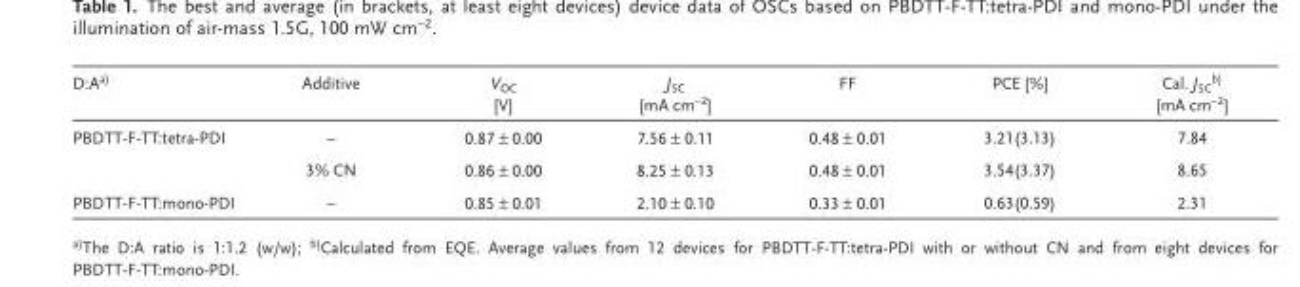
<table><thead><tr><td>D:A a)</td><td>Additive</td><td>V <sub>OC</sub> [V]</td><td>J <sub>SC</sub> [mA cm <sup>−2</sup> ]</td><td>FF</td><td>PCE [%]</td><td>Cal. J <sub>SC</sub> b) [mA cm <sup>−2</sup> ]</td></tr></thead><tbody><tr><td rowspan="2">PBDTT-F-TT:tetra-PDI</td><td>–</td><td>0.87 ± 0.00</td><td>7.56 ± 0.11</td><td>0.48 ± 0.01</td><td>3.21(3.13)</td><td>7.84</td></tr><tr><td>3% CN</td><td>0.86 ± 0.00</td><td>8.25 ± 0.13</td><td>0.48 ± 0.01</td><td>3.54(3.37)</td><td>8.65</td></tr><tr><td>PBDTT-F-TT:mono-PDI</td><td>–</td><td>0.85 ± 0.01</td><td>2.10 ± 0.10</td><td>0.33 ± 0.01</td><td>0.63(0.59)</td><td>2.31</td></tr></tbody></table>